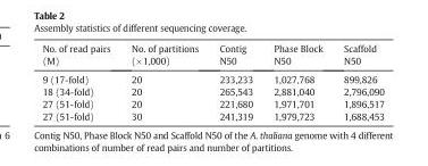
<table><thead><tr><td>No. of read pairs (M)</td><td>No. of partitions (×1,000)</td><td>Contig N50</td><td>Phase Block N50</td><td>Scaffold N50</td></tr></thead><tbody><tr><td>9 (17-fold)</td><td>20</td><td>233,233</td><td>1,027,768</td><td>899,826</td></tr><tr><td>18 (34-fold)</td><td>20</td><td>265,543</td><td>2,881,040</td><td>2,796,090</td></tr><tr><td>27 (51-fold)</td><td>20</td><td>221,680</td><td>1,971,701</td><td>1,896,517</td></tr><tr><td>27 (51-fold)</td><td>30</td><td>241,319</td><td>1,979,723</td><td>1,688,453</td></tr></tbody></table>